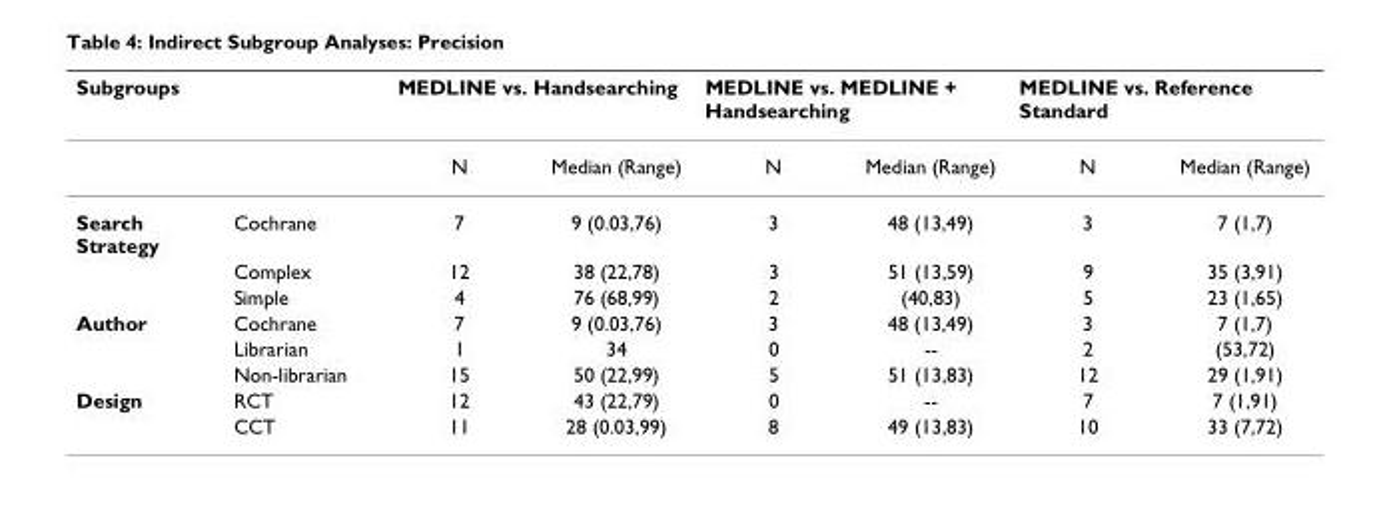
<table><thead><tr><td rowspan="2">Subgroups</td><td rowspan="2"></td><td colspan="2">MEDLINE vs. Handsearching</td><td colspan="2">MEDLINE vs. MEDLINE + Handsearching</td><td colspan="2">MEDLINE vs. Reference Standard</td></tr><tr><td>N</td><td>Median (Range)</td><td>N</td><td>Median (Range)</td><td>N</td><td>Median (Range)</td></tr></thead><tbody><tr><td rowspan="3">Search Strategy</td><td>Cochrane</td><td>7</td><td>9 (0.03,76)</td><td>3</td><td>48 (13,49)</td><td>3</td><td>7 (1,7)</td></tr><tr><td>Complex</td><td>12</td><td>38 (22,78)</td><td>3</td><td>51 (13,59)</td><td>9</td><td>35 (3,91)</td></tr><tr><td>Simple</td><td>4</td><td>76 (68,99)</td><td>2</td><td>(40,83)</td><td>5</td><td>23 (1,65)</td></tr><tr><td rowspan="3">Author</td><td>Cochrane</td><td>7</td><td>9 (0.03,76)</td><td>3</td><td>48 (13,49)</td><td>3</td><td>7 (1,7)</td></tr><tr><td>Librarian</td><td>1</td><td>34</td><td>0</td><td>--</td><td>2</td><td>(53,72)</td></tr><tr><td>Non-librarian</td><td>15</td><td>50 (22,99)</td><td>5</td><td>51 (13,83)</td><td>12</td><td>29 (1,91)</td></tr><tr><td rowspan="2">Design</td><td>RCT</td><td>12</td><td>43 (22,79)</td><td>0</td><td>--</td><td>7</td><td>7 (1,91)</td></tr><tr><td>CCT</td><td>11</td><td>28 (0.03,99)</td><td>8</td><td>49 (13,83)</td><td>10</td><td>33 (7,72)</td></tr></tbody></table>